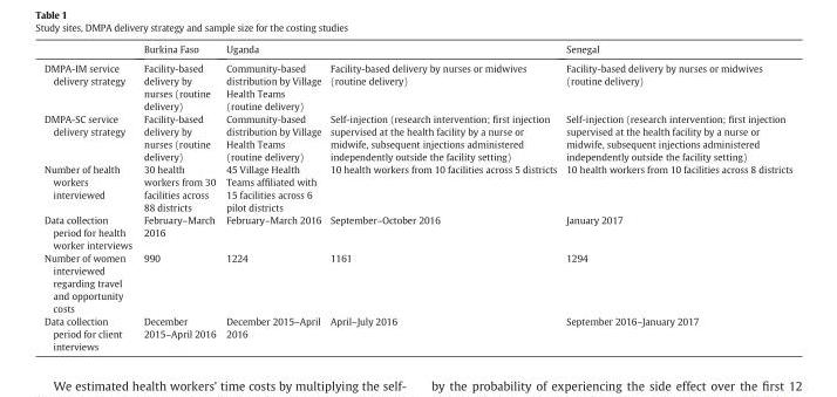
<table><thead><tr><td rowspan="2">DMPA-IM service delivery strategy</td><td rowspan="2">Burkina Faso Facility-based delivery by nurses (routine delivery)</td><td colspan="2">Uganda</td><td rowspan="2">Senegal Facility-based delivery by nurses or midwives (routine delivery)</td></tr><tr><td>Community-based distribution by Village Health Teams (routine delivery)</td><td>Facility-based delivery by nurses or midwives (routine delivery)</td></tr></thead><tbody><tr><td>DMPA-SC service delivery strategy</td><td>Facility-based delivery by nurses (routine delivery)</td><td>Community-based distribution by Village Health Teams (routine delivery)</td><td>Self-injection (research intervention; first injection supervised at the health facility by a nurse or midwife, subsequent injections administered independently outside the facility setting)</td><td>Self-injection (research intervention; first injection supervised at the health facility by a nurse or midwife, subsequent injections administered independently outside the facility setting)</td></tr><tr><td>Number of health workers interviewed</td><td>30 health workers from 30 facilities across 88 districts</td><td>45 Village Health Teams affiliated with 15 facilities across 6 pilot districts</td><td>10 health workers from 10 facilities across 5 districts</td><td>10 health workers from 10 facilities across 8 districts</td></tr><tr><td>Data collection period for health worker interviews</td><td>February–March 2016</td><td>February–March 2016</td><td>September–October 2016</td><td>January 2017</td></tr><tr><td>Number of women interviewed regarding travel and opportunity costs</td><td>990</td><td>1224</td><td>1161</td><td>1294</td></tr><tr><td>Data collection period for client interviews</td><td>December 2015–April 2016</td><td>December 2015–April 2016</td><td>April–July 2016</td><td>September 2016–January 2017</td></tr></tbody></table>